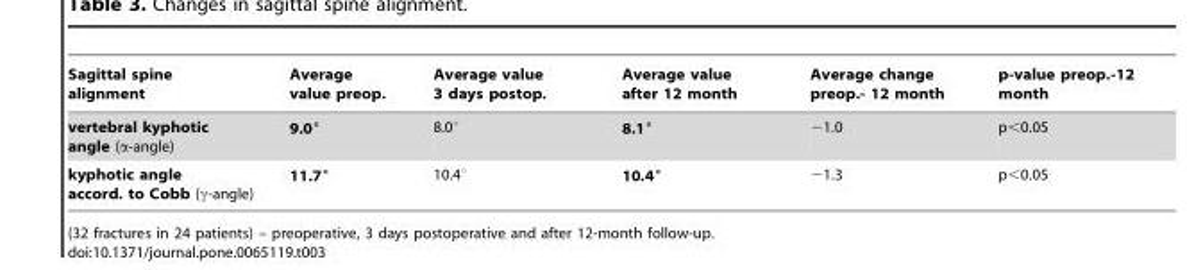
<table><thead><tr><td>Sagittal spine alignment</td><td>Average value preop.</td><td>Average value 3 days postop.</td><td>Average value after 12 month</td><td>Average change preop.- 12 month</td><td>p-value preop.-12 month</td></tr></thead><tbody><tr><td>vertebral kyphotic angle (α-angle)</td><td>9.0°</td><td>8.0°</td><td>8.1°</td><td>−1.0</td><td>p&lt;0.05</td></tr><tr><td>kyphotic angle accord. to Cobb (γ-angle)</td><td>11.7°</td><td>10.4°</td><td>10.4°</td><td>−1.3</td><td>p&lt;0.05</td></tr></tbody></table>